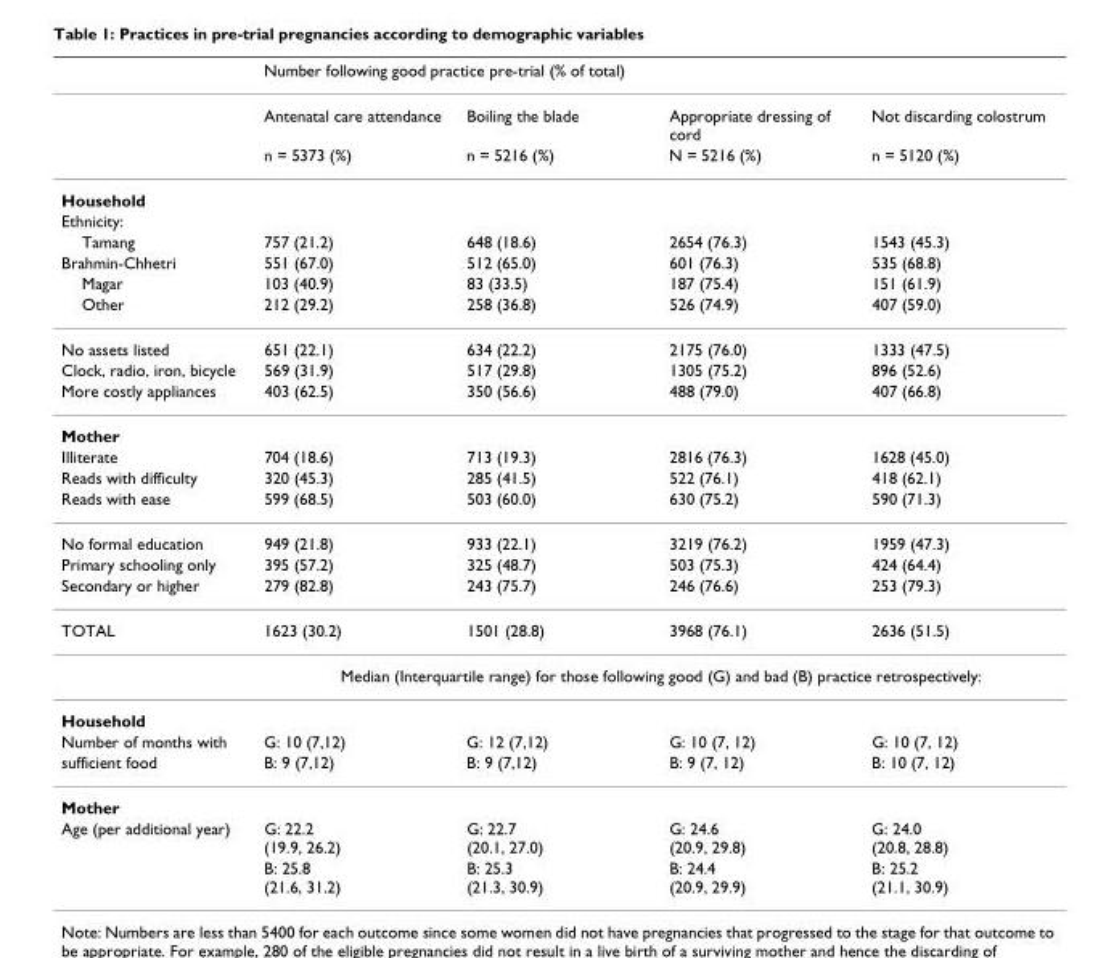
<table><thead><tr><td rowspan="2"></td><td colspan="4">Number following good practice pre-trial (% of total)</td></tr><tr><td>Antenatal care attendance</td><td>Boiling the blade</td><td>Appropriate dressing of cord</td><td>Not discarding colostrum</td></tr></thead><tbody><tr><td></td><td>n = 5373 (%)</td><td>n = 5216 (%)</td><td>N = 5216 (%)</td><td>n = 5120 (%)</td></tr><tr><td colspan="5">Household</td></tr><tr><td colspan="5">Ethnicity:</td></tr><tr><td>Tamang</td><td>757 (21.2)</td><td>648 (18.6)</td><td>2654 (76.3)</td><td>1543 (45.3)</td></tr><tr><td>Brahmin-Chhetri</td><td>551 (67.0)</td><td>512 (65.0)</td><td>601 (76.3)</td><td>535 (68.8)</td></tr><tr><td>Magar</td><td>103 (40.9)</td><td>83 (33.5)</td><td>187 (75.4)</td><td>151 (61.9)</td></tr><tr><td>Other</td><td>212 (29.2)</td><td>258 (36.8)</td><td>526 (74.9)</td><td>407 (59.0)</td></tr><tr><td>No assets listed</td><td>651 (22.1)</td><td>634 (22.2)</td><td>2175 (76.0)</td><td>1333 (47.5)</td></tr><tr><td>Clock, radio, iron, bicycle</td><td>569 (31.9)</td><td>517 (29.8)</td><td>1305 (75.2)</td><td>896 (52.6)</td></tr><tr><td>More costly appliances</td><td>403 (62.5)</td><td>350 (56.6)</td><td>488 (79.0)</td><td>407 (66.8)</td></tr><tr><td colspan="5">Mother</td></tr><tr><td>Illiterate</td><td>704 (18.6)</td><td>713 (19.3)</td><td>2816 (76.3)</td><td>1628 (45.0)</td></tr><tr><td>Reads with difficulty</td><td>320 (45.3)</td><td>285 (41.5)</td><td>522 (76.1)</td><td>418 (62.1)</td></tr><tr><td>Reads with ease</td><td>599 (68.5)</td><td>503 (60.0)</td><td>630 (75.2)</td><td>590 (71.3)</td></tr><tr><td>No formal education</td><td>949 (21.8)</td><td>933 (22.1)</td><td>3219 (76.2)</td><td>1959 (47.3)</td></tr><tr><td>Primary schooling only</td><td>395 (57.2)</td><td>325 (48.7)</td><td>503 (75.3)</td><td>424 (64.4)</td></tr><tr><td>Secondary or higher</td><td>279 (82.8)</td><td>243 (75.7)</td><td>246 (76.6)</td><td>253 (79.3)</td></tr><tr><td rowspan="2">TOTAL</td><td>1623 (30.2)</td><td>1501 (28.8)</td><td>3968 (76.1)</td><td>2636 (51.5)</td></tr><tr><td colspan="4">Median (Interquartile range) for those following good (G) and bad (B) practice retrospectively:</td></tr><tr><td colspan="5">Household</td></tr><tr><td>Number of months with</td><td>G: 10 (7,12)</td><td>G: 12 (7,12)</td><td>G: 10 (7, 12)</td><td>G: 10 (7, 12)</td></tr><tr><td>sufficient food</td><td>B: 9 (7,12)</td><td>B: 9 (7,12)</td><td>B: 9 (7, 12)</td><td>B: 10 (7, 12)</td></tr><tr><td colspan="5">Mother</td></tr><tr><td rowspan="2">Age (per additional year)</td><td>G: 22.2 (19.9, 26.2)</td><td>G: 22.7 (20.1, 27.0)</td><td>G: 24.6 (20.9, 29.8)</td><td>G: 24.0 (20.8, 28.8)</td></tr><tr><td>B: 25.8 (21.6, 31.2)</td><td>B: 25.3 (21.3, 30.9)</td><td>B: 24.4 (20.9, 29.9)</td><td>B: 25.2 (21.1, 30.9)</td></tr></tbody></table>